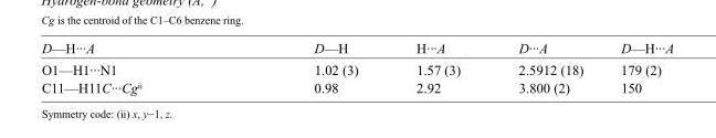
<table><tbody><tr><td>D—H···A</td><td>D—H</td><td>H···A</td><td>D···A</td><td>D—H···A</td></tr><tr><td>O1—H1···N1</td><td>1.02 (3)</td><td>1.57 (3)</td><td>2.5912 (18)</td><td>179 (2)</td></tr><tr><td>C11—H11C···Cg<sup>ii</sup></td><td>0.98</td><td>2.92</td><td>3.800 (2)</td><td>150</td></tr></tbody></table>